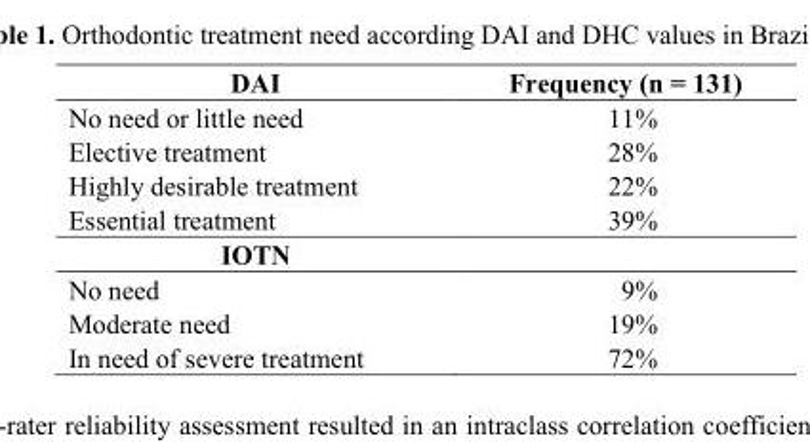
<table><tbody><tr><td>DAI</td><td>Frequency (n = 131)</td></tr><tr><td>No need or little need</td><td>11%</td></tr><tr><td>Elective treatment</td><td>28%</td></tr><tr><td>Highly desirable treatment</td><td>22%</td></tr><tr><td>Essential treatment</td><td>39%</td></tr><tr><td colspan="2">IOTN</td></tr><tr><td>No need</td><td>9%</td></tr><tr><td>Moderate need</td><td>19%</td></tr><tr><td>In need of severe treatment</td><td>72%</td></tr></tbody></table>